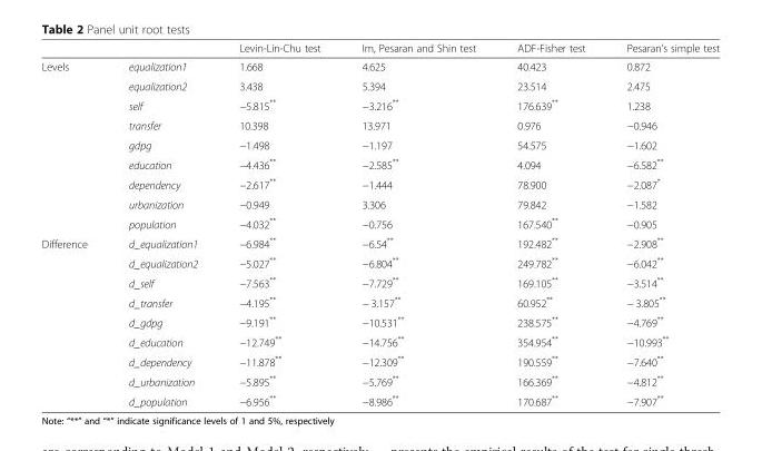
<table><thead><tr><td></td><td></td><td>Levin-Lin-Chu test</td><td>Im, Pesaran and Shin test</td><td>ADF-Fisher test</td><td>Pesaran’s simple test</td></tr></thead><tbody><tr><td rowspan="9">Levels</td><td>equalization1</td><td>1.668</td><td>4.625</td><td>40.423</td><td>0.872</td></tr><tr><td>equalization2</td><td>3.438</td><td>5.394</td><td>23.514</td><td>2.475</td></tr><tr><td>self</td><td>−5.815**</td><td>−3.216**</td><td>176.639**</td><td>1.238</td></tr><tr><td>transfer</td><td>10.398</td><td>13.971</td><td>0.976</td><td>−0.946</td></tr><tr><td>gdpg</td><td>−1.498</td><td>−1.197</td><td>54.575</td><td>−1.602</td></tr><tr><td>education</td><td>−4.436**</td><td>−2.585**</td><td>4.094</td><td>−6.582**</td></tr><tr><td>dependency</td><td>−2.617**</td><td>−1.444</td><td>78.900</td><td>−2.087*</td></tr><tr><td>urbanization</td><td>−0.949</td><td>3.306</td><td>79.842</td><td>−1.582</td></tr><tr><td>population</td><td>−4.032**</td><td>−0.756</td><td>167.540**</td><td>−0.905</td></tr><tr><td rowspan="9">Difference</td><td>d_equalization1</td><td>−6.984**</td><td>−6.54**</td><td>192.482**</td><td>−2.908**</td></tr><tr><td>d_equalization2</td><td>−5.027**</td><td>−6.804**</td><td>249.782**</td><td>−6.042**</td></tr><tr><td>d_self</td><td>−7.563**</td><td>−7.729**</td><td>169.105**</td><td>−3.514**</td></tr><tr><td>d_transfer</td><td>−4.195**</td><td>− 3.157**</td><td>60.952**</td><td>− 3.805**</td></tr><tr><td>d_gdpg</td><td>−9.191**</td><td>−10.531**</td><td>238.575**</td><td>−4.769**</td></tr><tr><td>d_education</td><td>−12.749**</td><td>−14.756**</td><td>354.954**</td><td>−10.993**</td></tr><tr><td>d_dependency</td><td>−11.878**</td><td>−12.309**</td><td>190.559**</td><td>−7.640**</td></tr><tr><td>d_urbanization</td><td>−5.895**</td><td>−5.769**</td><td>166.369**</td><td>−4.812**</td></tr><tr><td>d_population</td><td>−6.956**</td><td>−8.986**</td><td>170.687**</td><td>−7.907**</td></tr></tbody></table>